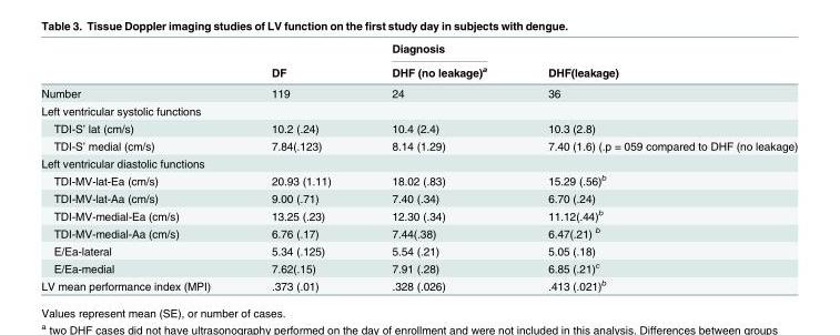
<table><thead><tr><td rowspan="2"></td><td rowspan="2">DF</td><td rowspan="2">Diagnosis DHF (no leakage)<sup>a</sup></td><td rowspan="2">DHF(leakage)</td></tr><tr></tr></thead><tbody><tr><td>Number</td><td>119</td><td>24</td><td>36</td></tr><tr><td colspan="4">Left ventricular systolic functions</td></tr><tr><td>TDI-S’ lat (cm/s)</td><td>10.2 (.24)</td><td>10.4 (2.4)</td><td>10.3 (2.8)</td></tr><tr><td>TDI-S’ medial (cm/s)</td><td>7.84(.123)</td><td>8.14 (1.29)</td><td>7.40 (1.6) (.p = 059 compared to DHF (no leakage)</td></tr><tr><td colspan="4">Left ventricular diastolic functions</td></tr><tr><td>TDI-MV-lat-Ea (cm/s)</td><td>20.93 (1.11)</td><td>18.02 (.83)</td><td>15.29 (.56)<sup>b</sup></td></tr><tr><td>TDI-MV-lat-Aa (cm/s)</td><td>9.00 (.71)</td><td>7.40 (.34)</td><td>6.70 (.24)</td></tr><tr><td>TDI-MV-medial-Ea (cm/s)</td><td>13.25 (.23)</td><td>12.30 (.34)</td><td>11.12(.44)<sup>b</sup></td></tr><tr><td>TDI-MV-medial-Aa (cm/s)</td><td>6.76 (.17)</td><td>7.44(.38)</td><td>6.47(.21) <sup>b</sup></td></tr><tr><td>E/Ea-lateral</td><td>5.34 (.125)</td><td>5.54 (.21)</td><td>5.05 (.18)</td></tr><tr><td>E/Ea-medial</td><td>7.62(.15)</td><td>7.91 (.28)</td><td>6.85 (.21)<sup>c</sup></td></tr><tr><td>LV mean performance index (MPI)</td><td>.373 (.01)</td><td>.328 (.026)</td><td>.413 (.021)<sup>b</sup></td></tr></tbody></table>